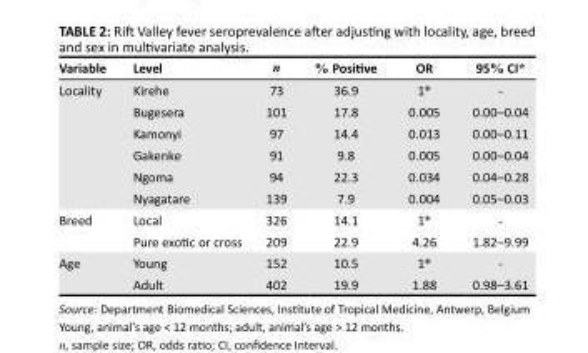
<table><thead><tr><td>Variable</td><td>Level</td><td>n</td><td>% Positive</td><td>OR</td><td>95% CI*</td></tr></thead><tbody><tr><td rowspan="6">Locality</td><td>Kirehe</td><td>73</td><td>36.9</td><td>1*</td><td>-</td></tr><tr><td>Bugesera</td><td>101</td><td>17.8</td><td>0.005</td><td>0.00–0.04</td></tr><tr><td>Kamonyi</td><td>97</td><td>14.4</td><td>0.013</td><td>0.00–0.11</td></tr><tr><td>Gakenke</td><td>91</td><td>9.8</td><td>0.005</td><td>0.00–0.04</td></tr><tr><td>Ngoma</td><td>94</td><td>22.3</td><td>0.034</td><td>0.04–0.28</td></tr><tr><td>Nyagatare</td><td>139</td><td>7.9</td><td>0.004</td><td>0.05–0.03</td></tr><tr><td rowspan="2">Breed</td><td>Local</td><td>326</td><td>14.1</td><td>1*</td><td>-</td></tr><tr><td>Pure exotic or cross</td><td>209</td><td>22.9</td><td>4.26</td><td>1.82–9.99</td></tr><tr><td rowspan="2">Age</td><td>Young</td><td>152</td><td>10.5</td><td>1*</td><td>-</td></tr><tr><td>Adult</td><td>402</td><td>19.9</td><td>1.88</td><td>0.98–3.61</td></tr></tbody></table>